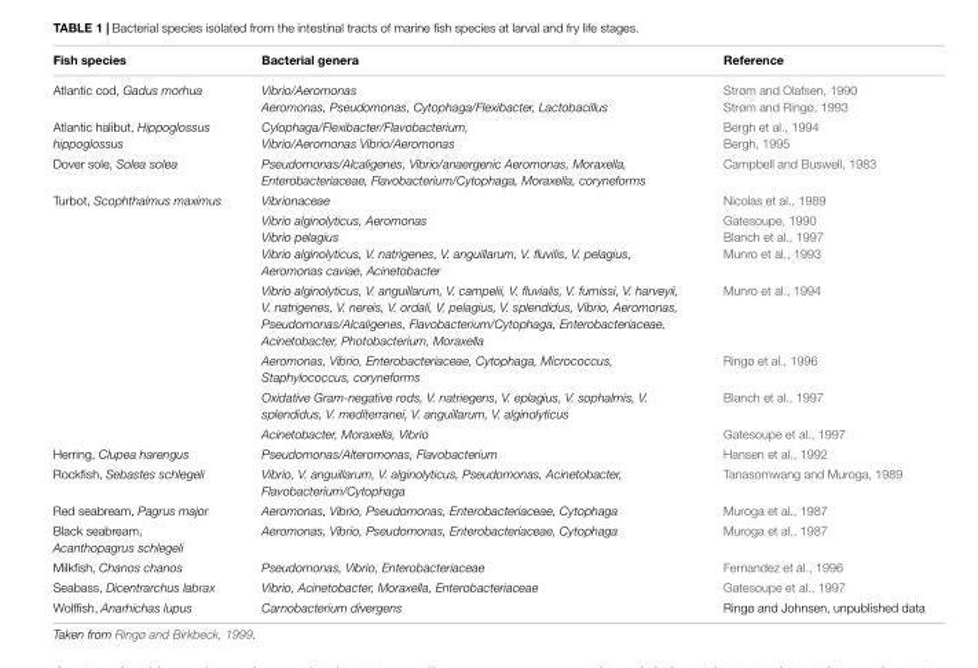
<table><thead><tr><td>Fish species</td><td>Bacterial genera</td><td>Reference</td></tr></thead><tbody><tr><td>Atlantic cod, Gadus morhua</td><td>Vibrio/Aeromonas Aeromonas, Pseudomonas, Cytophaga/Flexibacter, Lactobacillus</td><td>Strøm and Olafsen, 1990 Strøm and Ringø, 1993</td></tr><tr><td>Atlantic halibut, Hippoglossus hippoglossus</td><td>Cylophaga/Flexibacter/Flavobacterium, Vibrio/Aeromonas Vibrio/Aeromonas</td><td>Bergh et al., 1994 Bergh, 1995</td></tr><tr><td>Dover sole, Solea solea</td><td>Pseudomonas/Alcaligenes, Vibrio/anaergenic Aeromonas, Moraxella, Enterobacteriaceae, Flavobacterium/Cytophaga, Moraxella, coryneforms</td><td>Campbell and Buswell, 1983</td></tr><tr><td rowspan="6">Turbot, Scophthalmus maximus</td><td>Vibrionaceae</td><td>Nicolas et al., 1989</td></tr><tr><td>Vibrio alginolyticus, Aeromonas Vibrio pelagius Vibrio alginolyticus, V. natrigenes, V. anguillarum, V. fluvilis, V. pelagius, Aeromonas caviae, Acinetobacter</td><td>Gatesoupe, 1990 Blanch et al., 1997 Munro et al., 1993</td></tr><tr><td>Vibrio alginolyticus, V. anguillarum, V. campelii, V. fluvialis, V. furnissi, V. harveyii, V. natrigenes, V. nereis, V. ordali, V. pelagius, V. splendidus, Vibrio, Aeromonas, Pseudomonas/Alcaligenes, Flavobacterium/Cytophaga, Enterobacteriaceae, Acinetobacter, Photobacterium, Moraxella</td><td>Munro et al., 1994</td></tr><tr><td>Aeromonas, Vibrio, Enterobacteriaceae, Cytophaga, Micrococcus, Staphylococcus, coryneforms</td><td>Ringø et al., 1996</td></tr><tr><td>Oxidative Gram-negative rods, V. natriegens, V. eplagius, V. sophalmis, V. splendidus, V. mediterranei, V. anguillarum, V. alginolyticus</td><td>Blanch et al., 1997</td></tr><tr><td>Acinetobacter, Moraxella, Vibrio</td><td>Gatesoupe et al., 1997</td></tr><tr><td>Herring, Clupea harengus</td><td>Pseudomonas/Alteromonas, Flavobacterium</td><td>Hansen et al., 1992</td></tr><tr><td>Rockfish, Sebastes schlegeli</td><td>Vibrio, V. anguillarum, V. alginolyticus, Pseudomonas, Acinetobacter, Flavobacterium/Cytophaga</td><td>Tanasomwang and Muroga, 1989</td></tr><tr><td>Red seabream, Pagrus major</td><td>Aeromonas, Vibrio, Pseudomonas, Enterobacteriaceae, Cytophaga</td><td>Muroga et al., 1987</td></tr><tr><td>Black seabream, Acanthopagrus schlegeli</td><td>Aeromonas, Vibrio, Pseudomonas, Enterobacteriaceae, Cytophaga</td><td>Muroga et al., 1987</td></tr><tr><td>Milkfish, Chanos chanos</td><td>Pseudomonas, Vibrio, Enterobacteriaceae</td><td>Fernandez et al., 1996</td></tr><tr><td>Seabass, Dicentrarchus labrax</td><td>Vibrio, Acinetobacter, Moraxella, Enterobacteriaceae</td><td>Gatesoupe et al., 1997</td></tr><tr><td>Wolffish, Anarhichas lupus</td><td>Carnobacterium divergens</td><td>Ringø and Johnsen, unpublished data</td></tr></tbody></table>